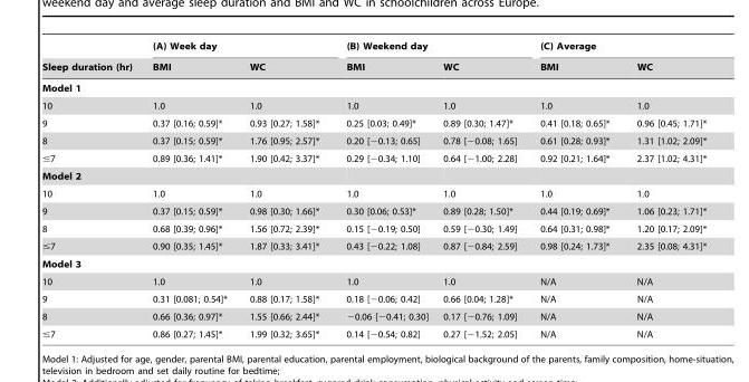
<table><thead><tr><td rowspan="2">Sleep duration (hr)</td><td colspan="2">(A) Week day</td><td colspan="2">(B) Weekend day</td><td colspan="2">(C) Average</td></tr><tr><td>BMI</td><td>WC</td><td>BMI</td><td>WC</td><td>BMI</td><td>WC</td></tr></thead><tbody><tr><td colspan="7">Model 1</td></tr><tr><td>10</td><td>1.0</td><td>1.0</td><td>1.0</td><td>1.0</td><td>1.0</td><td>1.0</td></tr><tr><td>9</td><td>0.37 [0.16; 0.59]*</td><td>0.93 [0.27; 1.58]*</td><td>0.25 [0.03; 0.49]*</td><td>0.89 [0.30; 1.47]*</td><td>0.41 [0.18; 0.65]*</td><td>0.96 [0.45; 1.71]*</td></tr><tr><td>8</td><td>0.37 [0.15; 0.59]*</td><td>1.76 [0.95; 2.57]*</td><td>0.20 [−0.13; 0.65]</td><td>0.78 [−0.08; 1.65]</td><td>0.61 [0.28; 0.93]*</td><td>1.31 [1.02; 2.09]*</td></tr><tr><td>≤7</td><td>0.89 [0.36; 1.41]*</td><td>1.90 [0.42; 3.37]*</td><td>0.29 [−0.34; 1.10]</td><td>0.64 [−1.00; 2.28]</td><td>0.92 [0.21; 1.64]*</td><td>2.37 [1.02; 4.31]*</td></tr><tr><td colspan="7">Model 2</td></tr><tr><td>10</td><td>1.0</td><td>1.0</td><td>1.0</td><td>1.0</td><td>1.0</td><td>1.0</td></tr><tr><td>9</td><td>0.37 [0.15; 0.59]*</td><td>0.98 [0.30; 1.66]*</td><td>0.30 [0.06; 0.53]*</td><td>0.89 [0.28; 1.50]*</td><td>0.44 [0.19; 0.69]*</td><td>1.06 [0.23; 1.71]*</td></tr><tr><td>8</td><td>0.68 [0.39; 0.96]*</td><td>1.56 [0.72; 2.39]*</td><td>0.15 [−0.19; 0.50]</td><td>0.59 [−0.30; 1.49]</td><td>0.64 [0.31; 0.98]*</td><td>1.20 [0.17; 2.09]*</td></tr><tr><td>≤7</td><td>0.90 [0.35; 1.45]*</td><td>1.87 [0.33; 3.41]*</td><td>0.43 [−0.22; 1.08]</td><td>0.87 [−0.84; 2.59]</td><td>0.98 [0.24; 1.73]*</td><td>2.35 [0.08; 4.31]*</td></tr><tr><td colspan="7">Model 3</td></tr><tr><td>10</td><td>1.0</td><td>1.0</td><td>1.0</td><td>1.0</td><td>N/A</td><td>N/A</td></tr><tr><td>9</td><td>0.31 [0.081; 0.54]*</td><td>0.88 [0.17; 1.58]*</td><td>0.18 [−0.06; 0.42]</td><td>0.66 [0.04; 1.28]*</td><td>N/A</td><td>N/A</td></tr><tr><td>8</td><td>0.66 [0.36; 0.97]*</td><td>1.55 [0.66; 2.44]*</td><td>−0.06 [−0.41; 0.30]</td><td>0.17 [−0.76; 1.09]</td><td>N/A</td><td>N/A</td></tr><tr><td>≤7</td><td>0.86 [0.27; 1.45]*</td><td>1.99 [0.32; 3.65]*</td><td>0.14 [−0.54; 0.82]</td><td>0.27 [−1.52; 2.05]</td><td>N/A</td><td>N/A</td></tr></tbody></table>